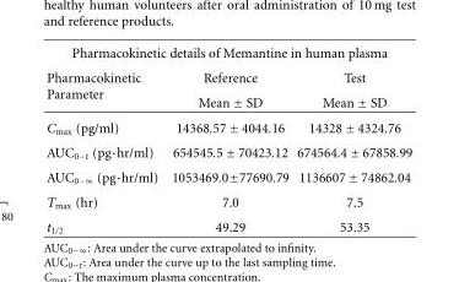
<table><thead><tr><td colspan="3">Pharmacokinetic details of Memantine in human plasma</td></tr><tr><td rowspan="2">Pharmacokinetic Parameter</td><td rowspan="2">Reference Mean ± SD</td><td rowspan="2">Test Mean ± SD</td></tr><tr></tr></thead><tbody><tr><td>C<sub>max</sub> (pg/ml)</td><td>14368.57 ± 4044.16</td><td>14328 ± 4324.76</td></tr><tr><td>AUC<sub>0−t</sub> (pg·hr/ml)</td><td>654545.5 ± 70423.12</td><td>674564.4 ± 67858.99</td></tr><tr><td>AUC<sub>0−∞</sub> (pg·hr/ml)</td><td>1053469.0±77690.79</td><td>1136607 ± 74862.04</td></tr><tr><td>T<sub>max</sub> (hr)</td><td>7.0</td><td>7.5</td></tr><tr><td>t<sub>1/2</sub></td><td>49.29</td><td>53.35</td></tr></tbody></table>